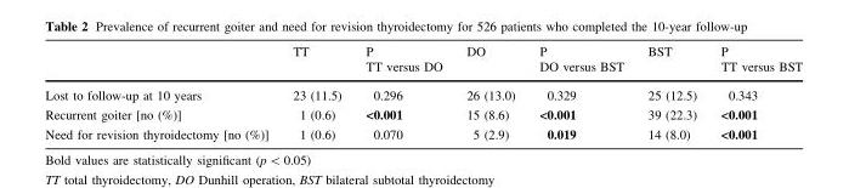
<table><thead><tr><td></td><td>TT</td><td>P TT versus DO</td><td>DO</td><td>P DO versus BST</td><td>BST</td><td>P TT versus BST</td></tr></thead><tbody><tr><td>Lost to follow-up at 10 years</td><td>23 (11.5)</td><td>0.296</td><td>26 (13.0)</td><td>0.329</td><td>25 (12.5)</td><td>0.343</td></tr><tr><td>Recurrent goiter [no (%)]</td><td>1 (0.6)</td><td>&lt;0.001</td><td>15 (8.6)</td><td>&lt;0.001</td><td>39 (22.3)</td><td>&lt;0.001</td></tr><tr><td>Need for revision thyroidectomy [no (%)]</td><td>1 (0.6)</td><td>0.070</td><td>5 (2.9)</td><td>0.019</td><td>14 (8.0)</td><td>&lt;0.001</td></tr></tbody></table>